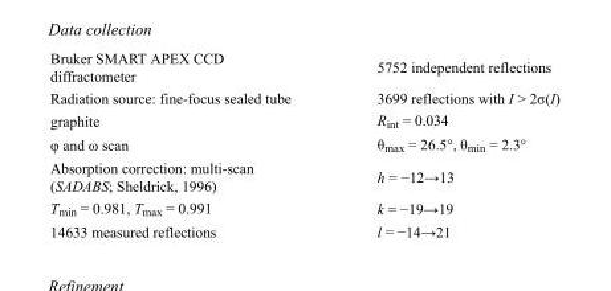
<table><tbody><tr><td>Bruker SMART APEX CCD diffractometer</td><td>5752 independent reflections</td></tr><tr><td>Radiation source: fine-focus sealed tube</td><td>3699 reflections with I &gt; 2σ(I)</td></tr><tr><td>graphite</td><td>R<sub>int</sub> = 0.034</td></tr><tr><td>φ and ω scan</td><td>θ<sub>max</sub> = 26.5°, θ<sub>min</sub> = 2.3°</td></tr><tr><td>Absorption correction: multi-scan (SADABS; Sheldrick, 1996)</td><td>h = −12→13</td></tr><tr><td>T<sub>min</sub> = 0.981, T<sub>max</sub> = 0.991</td><td>k = −19→19</td></tr><tr><td>14633 measured reflections</td><td>l = −14→21</td></tr></tbody></table>